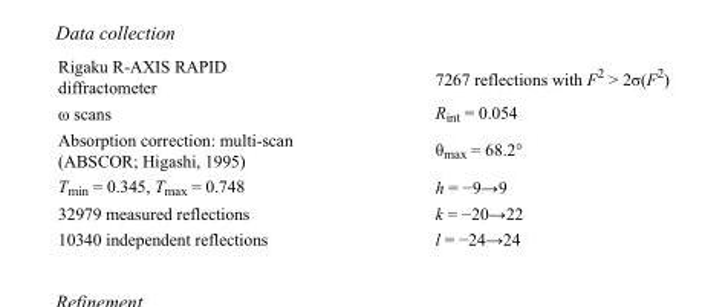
<table><tbody><tr><td>Rigaku R-AXIS RAPID diffractometer</td><td>7267 reflections with F<sup>2</sup> &gt; 2σ(F<sup>2</sup>)</td></tr><tr><td>ω scans</td><td>R<sub>int</sub> = 0.054</td></tr><tr><td>Absorption correction: multi-scan (ABSCOR; Higashi, 1995)</td><td>θ<sub>max</sub> = 68.2°</td></tr><tr><td>T<sub>min</sub> = 0.345, T<sub>max</sub> = 0.748</td><td>h = −9→9</td></tr><tr><td>32979 measured reflections</td><td>k = −20→22</td></tr><tr><td>10340 independent reflections</td><td>l = −24→24</td></tr></tbody></table>